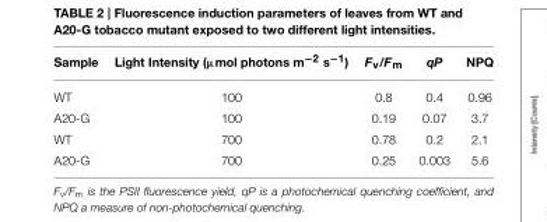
<table><thead><tr><td>Sample</td><td>Light Intensity (µmol photons m<sup>−2</sup> s<sup>−1</sup>)</td><td>F<sub>v</sub>/F<sub>m</sub></td><td>qP</td><td>NPQ</td></tr></thead><tbody><tr><td>WT</td><td>100</td><td>0.8</td><td>0.4</td><td>0.96</td></tr><tr><td>A20-G</td><td>100</td><td>0.19</td><td>0.07</td><td>3.7</td></tr><tr><td>WT</td><td>700</td><td>0.78</td><td>0.2</td><td>2.1</td></tr><tr><td>A20-G</td><td>700</td><td>0.25</td><td>0.003</td><td>5.6</td></tr></tbody></table>